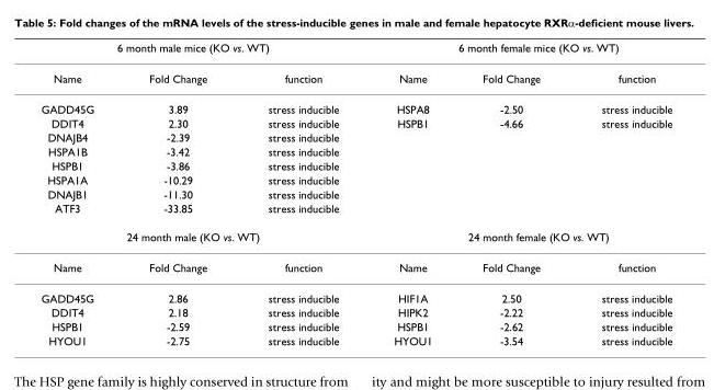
<table><thead><tr><td colspan="3">6 month male mice (KO vs. WT)</td><td colspan="3">6 month female mice (KO vs. WT)</td></tr><tr><td>Name</td><td>Fold Change</td><td>function</td><td>Name</td><td>Fold Change</td><td>function</td></tr></thead><tbody><tr><td>GADD45G</td><td>3.89</td><td>stress inducible</td><td>HSPA8</td><td>-2.50</td><td>stress inducible</td></tr><tr><td>DDIT4</td><td>2.30</td><td>stress inducible</td><td>HSPB1</td><td>-4.66</td><td>stress inducible</td></tr><tr><td>DNAJB4</td><td>-2.39</td><td>stress inducible</td><td></td><td></td><td></td></tr><tr><td>HSPA1B</td><td>-3.42</td><td>stress inducible</td><td></td><td></td><td></td></tr><tr><td>HSPB1</td><td>-3.86</td><td>stress inducible</td><td></td><td></td><td></td></tr><tr><td>HSPA1A</td><td>-10.29</td><td>stress inducible</td><td></td><td></td><td></td></tr><tr><td>DNAJB1</td><td>-11.30</td><td>stress inducible</td><td></td><td></td><td></td></tr><tr><td>ATF3</td><td>-33.85</td><td>stress inducible</td><td></td><td></td><td></td></tr><tr><td colspan="3">24 month male (KO vs. WT)</td><td colspan="3">24 month female (KO vs. WT)</td></tr><tr><td>Name</td><td>Fold Change</td><td>function</td><td>Name</td><td>Fold Change</td><td>function</td></tr><tr><td>GADD45G</td><td>2.86</td><td>stress inducible</td><td>HIF1A</td><td>2.50</td><td>stress inducible</td></tr><tr><td>DDIT4</td><td>2.18</td><td>stress inducible</td><td>HIPK2</td><td>-2.22</td><td>stress inducible</td></tr><tr><td>HSPB1</td><td>-2.59</td><td>stress inducible</td><td>HSPB1</td><td>-2.62</td><td>stress inducible</td></tr><tr><td>HYOU1</td><td>-2.75</td><td>stress inducible</td><td>HYOU1</td><td>-3.54</td><td>stress inducible</td></tr></tbody></table>